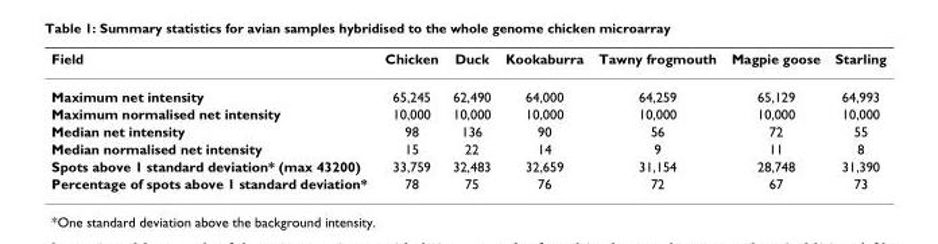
<table><thead><tr><td>Field</td><td>Chicken</td><td>Duck</td><td>Kookaburra</td><td>Tawny frogmouth</td><td>Magpie goose</td><td>Starling</td></tr></thead><tbody><tr><td>Maximum net intensity</td><td>65,245</td><td>62,490</td><td>64,000</td><td>64,259</td><td>65,129</td><td>64,993</td></tr><tr><td>Maximum normalised net intensity</td><td>10,000</td><td>10,000</td><td>10,000</td><td>10,000</td><td>10,000</td><td>10,000</td></tr><tr><td>Median net intensity</td><td>98</td><td>136</td><td>90</td><td>56</td><td>72</td><td>55</td></tr><tr><td>Median normalised net intensity</td><td>15</td><td>22</td><td>14</td><td>9</td><td>11</td><td>8</td></tr><tr><td>Spots above 1 standard deviation* (max 43200)</td><td>33,759</td><td>32,483</td><td>32,659</td><td>31,154</td><td>28,748</td><td>31,390</td></tr><tr><td>Percentage of spots above 1 standard deviation*</td><td>78</td><td>75</td><td>76</td><td>72</td><td>67</td><td>73</td></tr></tbody></table>